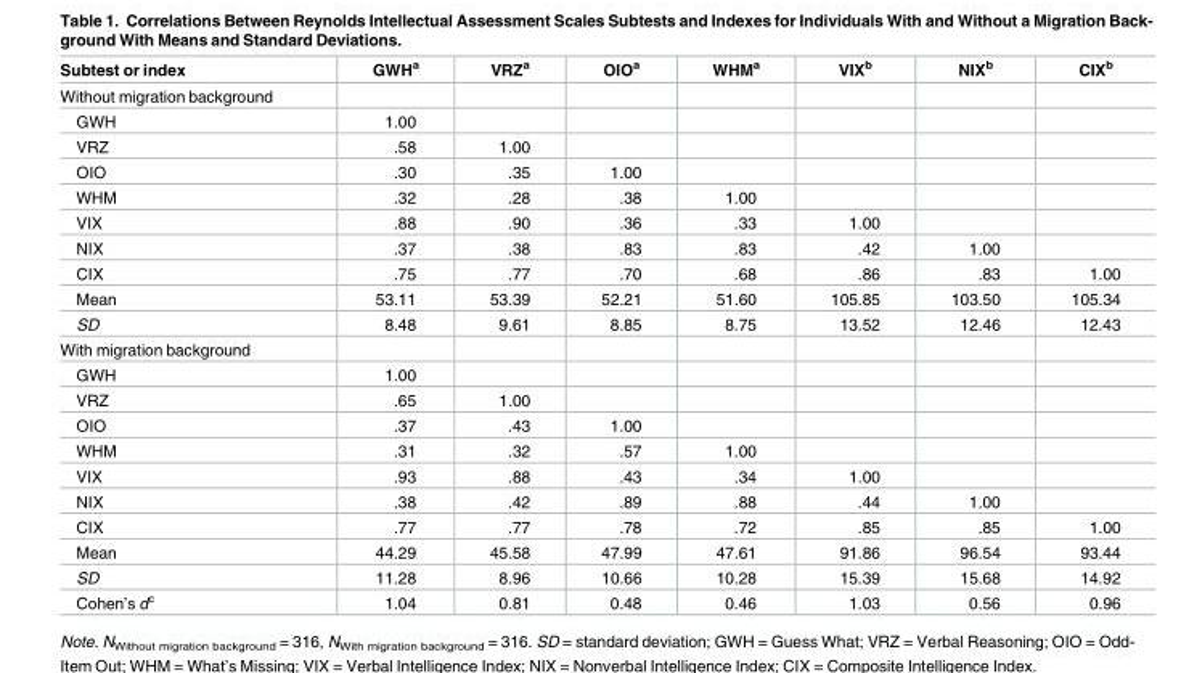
<table><thead><tr><td>Subtest or index</td><td>GWH<sup>a</sup></td><td>VRZ<sup>a</sup></td><td>OIO<sup>a</sup></td><td>WHM<sup>a</sup></td><td>VIX<sup>b</sup></td><td>NIX<sup>b</sup></td><td>CIX<sup>b</sup></td></tr></thead><tbody><tr><td colspan="8">Without migration background</td></tr><tr><td>GWH</td><td>1.00</td><td></td><td></td><td></td><td></td><td></td><td></td></tr><tr><td>VRZ</td><td>.58</td><td>1.00</td><td></td><td></td><td></td><td></td><td></td></tr><tr><td>OIO</td><td>.30</td><td>.35</td><td>1.00</td><td></td><td></td><td></td><td></td></tr><tr><td>WHM</td><td>.32</td><td>.28</td><td>.38</td><td>1.00</td><td></td><td></td><td></td></tr><tr><td>VIX</td><td>.88</td><td>.90</td><td>.36</td><td>.33</td><td>1.00</td><td></td><td></td></tr><tr><td>NIX</td><td>.37</td><td>.38</td><td>.83</td><td>.83</td><td>.42</td><td>1.00</td><td></td></tr><tr><td>CIX</td><td>.75</td><td>.77</td><td>.70</td><td>.68</td><td>.86</td><td>.83</td><td>1.00</td></tr><tr><td>Mean</td><td>53.11</td><td>53.39</td><td>52.21</td><td>51.60</td><td>105.85</td><td>103.50</td><td>105.34</td></tr><tr><td>SD</td><td>8.48</td><td>9.61</td><td>8.85</td><td>8.75</td><td>13.52</td><td>12.46</td><td>12.43</td></tr><tr><td colspan="8">With migration background</td></tr><tr><td>GWH</td><td>1.00</td><td></td><td></td><td></td><td></td><td></td><td></td></tr><tr><td>VRZ</td><td>.65</td><td>1.00</td><td></td><td></td><td></td><td></td><td></td></tr><tr><td>OIO</td><td>.37</td><td>.43</td><td>1.00</td><td></td><td></td><td></td><td></td></tr><tr><td>WHM</td><td>.31</td><td>.32</td><td>.57</td><td>1.00</td><td></td><td></td><td></td></tr><tr><td>VIX</td><td>.93</td><td>.88</td><td>.43</td><td>.34</td><td>1.00</td><td></td><td></td></tr><tr><td>NIX</td><td>.38</td><td>.42</td><td>.89</td><td>.88</td><td>.44</td><td>1.00</td><td></td></tr><tr><td>CIX</td><td>.77</td><td>.77</td><td>.78</td><td>.72</td><td>.85</td><td>.85</td><td>1.00</td></tr><tr><td>Mean</td><td>44.29</td><td>45.58</td><td>47.99</td><td>47.61</td><td>91.86</td><td>96.54</td><td>93.44</td></tr><tr><td>SD</td><td>11.28</td><td>8.96</td><td>10.66</td><td>10.28</td><td>15.39</td><td>15.68</td><td>14.92</td></tr><tr><td>Cohen’s d<sup>c</sup></td><td>1.04</td><td>0.81</td><td>0.48</td><td>0.46</td><td>1.03</td><td>0.56</td><td>0.96</td></tr></tbody></table>